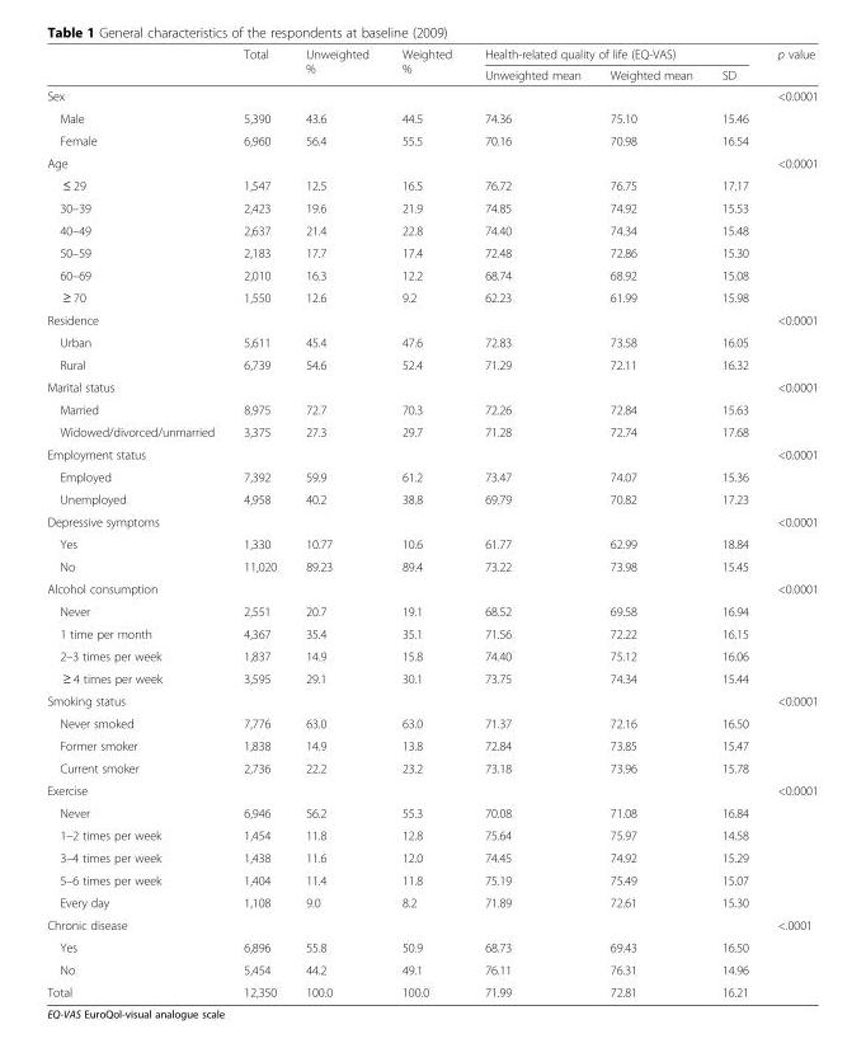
<table><thead><tr><td rowspan="2"></td><td rowspan="2">Total</td><td rowspan="2">Unweighted %</td><td rowspan="2">Weighted %</td><td colspan="3">Health-related quality of life (EQ-VAS)</td><td rowspan="2">p value</td></tr><tr><td>Unweighted mean</td><td>Weighted mean</td><td>SD</td></tr></thead><tbody><tr><td>Sex</td><td></td><td></td><td></td><td></td><td></td><td></td><td>&lt;0.0001</td></tr><tr><td>Male</td><td>5,390</td><td>43.6</td><td>44.5</td><td>74.36</td><td>75.10</td><td>15.46</td><td></td></tr><tr><td>Female</td><td>6,960</td><td>56.4</td><td>55.5</td><td>70.16</td><td>70.98</td><td>16.54</td><td></td></tr><tr><td>Age</td><td></td><td></td><td></td><td></td><td></td><td></td><td>&lt;0.0001</td></tr><tr><td>≤ 29</td><td>1,547</td><td>12.5</td><td>16.5</td><td>76.72</td><td>76.75</td><td>17.17</td><td></td></tr><tr><td>30–39</td><td>2,423</td><td>19.6</td><td>21.9</td><td>74.85</td><td>74.92</td><td>15.53</td><td></td></tr><tr><td>40–49</td><td>2,637</td><td>21.4</td><td>22.8</td><td>74.40</td><td>74.34</td><td>15.48</td><td></td></tr><tr><td>50–59</td><td>2,183</td><td>17.7</td><td>17.4</td><td>72.48</td><td>72.86</td><td>15.30</td><td></td></tr><tr><td>60–69</td><td>2,010</td><td>16.3</td><td>12.2</td><td>68.74</td><td>68.92</td><td>15.08</td><td></td></tr><tr><td>≥ 70</td><td>1,550</td><td>12.6</td><td>9.2</td><td>62.23</td><td>61.99</td><td>15.98</td><td></td></tr><tr><td>Residence</td><td></td><td></td><td></td><td></td><td></td><td></td><td>&lt;0.0001</td></tr><tr><td>Urban</td><td>5,611</td><td>45.4</td><td>47.6</td><td>72.83</td><td>73.58</td><td>16.05</td><td></td></tr><tr><td>Rural</td><td>6,739</td><td>54.6</td><td>52.4</td><td>71.29</td><td>72.11</td><td>16.32</td><td></td></tr><tr><td>Marital status</td><td></td><td></td><td></td><td></td><td></td><td></td><td>&lt;0.0001</td></tr><tr><td>Married</td><td>8,975</td><td>72.7</td><td>70.3</td><td>72.26</td><td>72.84</td><td>15.63</td><td></td></tr><tr><td>Widowed/divorced/unmarried</td><td>3,375</td><td>27.3</td><td>29.7</td><td>71.28</td><td>72.74</td><td>17.68</td><td></td></tr><tr><td>Employment status</td><td></td><td></td><td></td><td></td><td></td><td></td><td>&lt;0.0001</td></tr><tr><td>Employed</td><td>7,392</td><td>59.9</td><td>61.2</td><td>73.47</td><td>74.07</td><td>15.36</td><td></td></tr><tr><td>Unemployed</td><td>4,958</td><td>40.2</td><td>38.8</td><td>69.79</td><td>70.82</td><td>17.23</td><td></td></tr><tr><td>Depressive symptoms</td><td></td><td></td><td></td><td></td><td></td><td></td><td>&lt;0.0001</td></tr><tr><td>Yes</td><td>1,330</td><td>10.77</td><td>10.6</td><td>61.77</td><td>62.99</td><td>18.84</td><td></td></tr><tr><td>No</td><td>11,020</td><td>89.23</td><td>89.4</td><td>73.22</td><td>73.98</td><td>15.45</td><td></td></tr><tr><td>Alcohol consumption</td><td></td><td></td><td></td><td></td><td></td><td></td><td>&lt;0.0001</td></tr><tr><td>Never</td><td>2,551</td><td>20.7</td><td>19.1</td><td>68.52</td><td>69.58</td><td>16.94</td><td></td></tr><tr><td>1 time per month</td><td>4,367</td><td>35.4</td><td>35.1</td><td>71.56</td><td>72.22</td><td>16.15</td><td></td></tr><tr><td>2–3 times per week</td><td>1,837</td><td>14.9</td><td>15.8</td><td>74.40</td><td>75.12</td><td>16.06</td><td></td></tr><tr><td>≥ 4 times per week</td><td>3,595</td><td>29.1</td><td>30.1</td><td>73.75</td><td>74.34</td><td>15.44</td><td></td></tr><tr><td>Smoking status</td><td></td><td></td><td></td><td></td><td></td><td></td><td>&lt;0.0001</td></tr><tr><td>Never smoked</td><td>7,776</td><td>63.0</td><td>63.0</td><td>71.37</td><td>72.16</td><td>16.50</td><td></td></tr><tr><td>Former smoker</td><td>1,838</td><td>14.9</td><td>13.8</td><td>72.84</td><td>73.85</td><td>15.47</td><td></td></tr><tr><td>Current smoker</td><td>2,736</td><td>22.2</td><td>23.2</td><td>73.18</td><td>73.96</td><td>15.78</td><td></td></tr><tr><td>Exercise</td><td></td><td></td><td></td><td></td><td></td><td></td><td>&lt;0.0001</td></tr><tr><td>Never</td><td>6,946</td><td>56.2</td><td>55.3</td><td>70.08</td><td>71.08</td><td>16.84</td><td></td></tr><tr><td>1–2 times per week</td><td>1,454</td><td>11.8</td><td>12.8</td><td>75.64</td><td>75.97</td><td>14.58</td><td></td></tr><tr><td>3–4 times per week</td><td>1,438</td><td>11.6</td><td>12.0</td><td>74.45</td><td>74.92</td><td>15.29</td><td></td></tr><tr><td>5–6 times per week</td><td>1,404</td><td>11.4</td><td>11.8</td><td>75.19</td><td>75.49</td><td>15.07</td><td></td></tr><tr><td>Every day</td><td>1,108</td><td>9.0</td><td>8.2</td><td>71.89</td><td>72.61</td><td>15.30</td><td></td></tr><tr><td>Chronic disease</td><td></td><td></td><td></td><td></td><td></td><td></td><td>&lt;.0001</td></tr><tr><td>Yes</td><td>6,896</td><td>55.8</td><td>50.9</td><td>68.73</td><td>69.43</td><td>16.50</td><td></td></tr><tr><td>No</td><td>5,454</td><td>44.2</td><td>49.1</td><td>76.11</td><td>76.31</td><td>14.96</td><td></td></tr><tr><td>Total</td><td>12,350</td><td>100.0</td><td>100.0</td><td>71.99</td><td>72.81</td><td>16.21</td><td></td></tr></tbody></table>